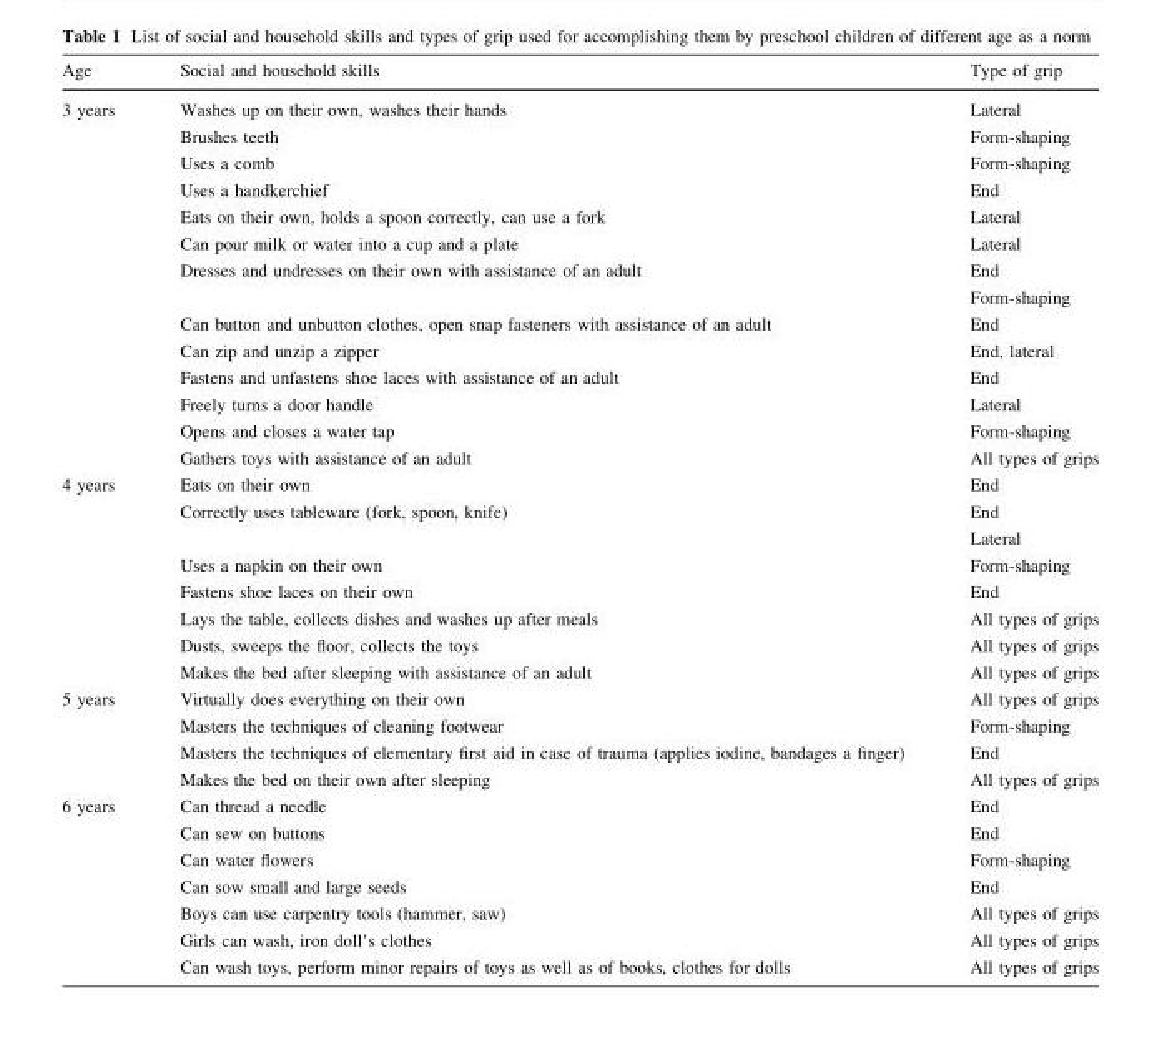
<table><thead><tr><td>Age</td><td>Social and household skills</td><td>Type of grip</td></tr></thead><tbody><tr><td rowspan="13">3 years</td><td>Washes up on their own, washes their hands</td><td>Lateral</td></tr><tr><td>Brushes teeth</td><td>Form-shaping</td></tr><tr><td>Uses a comb</td><td>Form-shaping</td></tr><tr><td>Uses a handkerchief</td><td>End</td></tr><tr><td>Eats on their own, holds a spoon correctly, can use a fork</td><td>Lateral</td></tr><tr><td>Can pour milk or water into a cup and a plate</td><td>Lateral</td></tr><tr><td>Dresses and undresses on their own with assistance of an adult</td><td>End Form-shaping</td></tr><tr><td>Can button and unbutton clothes, open snap fasteners with assistance of an adult</td><td>End</td></tr><tr><td>Can zip and unzip a zipper</td><td>End, lateral</td></tr><tr><td>Fastens and unfastens shoe laces with assistance of an adult</td><td>End</td></tr><tr><td>Freely turns a door handle</td><td>Lateral</td></tr><tr><td>Opens and closes a water tap</td><td>Form-shaping</td></tr><tr><td>Gathers toys with assistance of an adult</td><td>All types of grips</td></tr><tr><td rowspan="7">4 years</td><td>Eats on their own</td><td>End</td></tr><tr><td>Correctly uses tableware (fork, spoon, knife)</td><td>End Lateral</td></tr><tr><td>Uses a napkin on their own</td><td>Form-shaping</td></tr><tr><td>Fastens shoe laces on their own</td><td>End</td></tr><tr><td>Lays the table, collects dishes and washes up after meals</td><td>All types of grips</td></tr><tr><td>Dusts, sweeps the floor, collects the toys</td><td>All types of grips</td></tr><tr><td>Makes the bed after sleeping with assistance of an adult</td><td>All types of grips</td></tr><tr><td rowspan="4">5 years</td><td>Virtually does everything on their own</td><td>All types of grips</td></tr><tr><td>Masters the techniques of cleaning footwear</td><td>Form-shaping</td></tr><tr><td>Masters the techniques of elementary first aid in case of trauma (applies iodine, bandages a finger)</td><td>End</td></tr><tr><td>Makes the bed on their own after sleeping</td><td>All types of grips</td></tr><tr><td rowspan="7">6 years</td><td>Can thread a needle</td><td>End</td></tr><tr><td>Can sew on buttons</td><td>End</td></tr><tr><td>Can water flowers</td><td>Form-shaping</td></tr><tr><td>Can sow small and large seeds</td><td>End</td></tr><tr><td>Boys can use carpentry tools (hammer, saw)</td><td>All types of grips</td></tr><tr><td>Girls can wash, iron doll’s clothes</td><td>All types of grips</td></tr><tr><td>Can wash toys, perform minor repairs of toys as well as of books, clothes for dolls</td><td>All types of grips</td></tr></tbody></table>